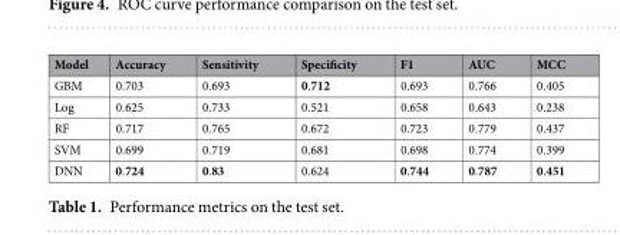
<table><thead><tr><td>Model</td><td>Accuracy</td><td>Sensitivity</td><td>Specificity</td><td>F1</td><td>AUC</td><td>MCC</td></tr></thead><tbody><tr><td>GBM</td><td>0.703</td><td>0.693</td><td>0.712</td><td>0.693</td><td>0.766</td><td>0.405</td></tr><tr><td>Log</td><td>0.625</td><td>0.733</td><td>0.521</td><td>0.658</td><td>0.643</td><td>0.238</td></tr><tr><td>RF</td><td>0.717</td><td>0.765</td><td>0.672</td><td>0.723</td><td>0.779</td><td>0.437</td></tr><tr><td>SVM</td><td>0.699</td><td>0.719</td><td>0.681</td><td>0.698</td><td>0.774</td><td>0.399</td></tr><tr><td>DNN</td><td>0.724</td><td>0.83</td><td>0.624</td><td>0.744</td><td>0.787</td><td>0.451</td></tr></tbody></table>